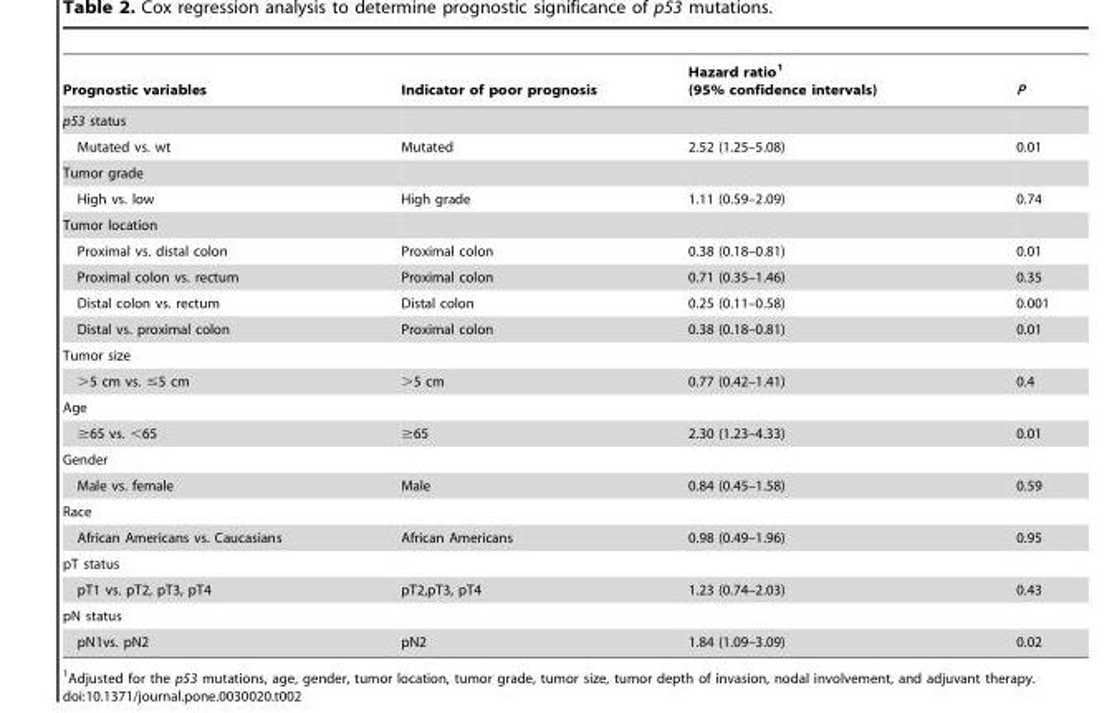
<table><thead><tr><td>Prognostic variables</td><td>Indicator of poor prognosis</td><td>Hazard ratio<sup>1</sup> (95% confidence intervals)</td><td>P</td></tr></thead><tbody><tr><td colspan="4">p53 status</td></tr><tr><td>Mutated vs. wt</td><td>Mutated</td><td>2.52 (1.25–5.08)</td><td>0.01</td></tr><tr><td colspan="4">Tumor grade</td></tr><tr><td>High vs. low</td><td>High grade</td><td>1.11 (0.59–2.09)</td><td>0.74</td></tr><tr><td colspan="4">Tumor location</td></tr><tr><td>Proximal vs. distal colon</td><td>Proximal colon</td><td>0.38 (0.18–0.81)</td><td>0.01</td></tr><tr><td>Proximal colon vs. rectum</td><td>Proximal colon</td><td>0.71 (0.35–1.46)</td><td>0.35</td></tr><tr><td>Distal colon vs. rectum</td><td>Distal colon</td><td>0.25 (0.11–0.58)</td><td>0.001</td></tr><tr><td>Distal vs. proximal colon</td><td>Proximal colon</td><td>0.38 (0.18–0.81)</td><td>0.01</td></tr><tr><td colspan="4">Tumor size</td></tr><tr><td>&gt;5 cm vs. ≤5 cm</td><td>&gt;5 cm</td><td>0.77 (0.42–1.41)</td><td>0.4</td></tr><tr><td colspan="4">Age</td></tr><tr><td>≥65 vs. &lt;65</td><td>≥65</td><td>2.30 (1.23–4.33)</td><td>0.01</td></tr><tr><td colspan="4">Gender</td></tr><tr><td>Male vs. female</td><td>Male</td><td>0.84 (0.45–1.58)</td><td>0.59</td></tr><tr><td colspan="4">Race</td></tr><tr><td>African Americans vs. Caucasians</td><td>African Americans</td><td>0.98 (0.49–1.96)</td><td>0.95</td></tr><tr><td colspan="4">pT status</td></tr><tr><td>pT1 vs. pT2, pT3, pT4</td><td>pT2,pT3, pT4</td><td>1.23 (0.74–2.03)</td><td>0.43</td></tr><tr><td colspan="4">pN status</td></tr><tr><td>pN1vs. pN2</td><td>pN2</td><td>1.84 (1.09–3.09)</td><td>0.02</td></tr></tbody></table>